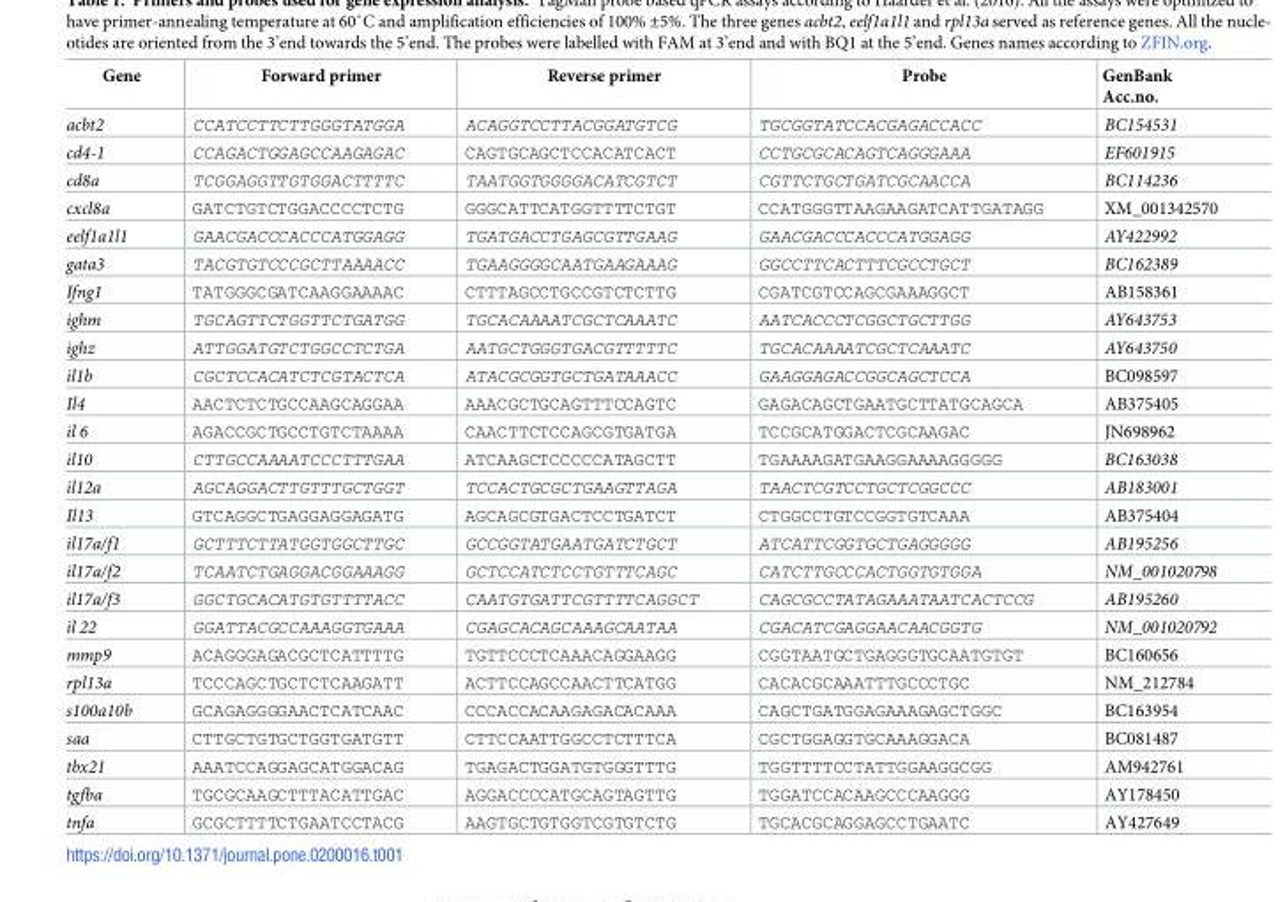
<table><thead><tr><td>Gene</td><td>Forward primer</td><td>Reverse primer</td><td>Probe</td><td>GenBank Acc.no.</td></tr></thead><tbody><tr><td>acbt2</td><td>CCATCCTTCTTGGGTATGGA</td><td>ACAGGTCCTTACGGATGTCG</td><td>TGCGGTATCCACGAGACCACC</td><td>BC154531</td></tr><tr><td>cd4-1</td><td>CCAGACTGGAGCCAAGAGAC</td><td>CAGTGCAGCTCCACATCACT</td><td>CCTGCGCACAGTCAGGGAAA</td><td>EF601915</td></tr><tr><td>cd8a</td><td>TCGGAGGTTGTGGACTTTTC</td><td>TAATGGTGGGGACATCGTCT</td><td>CGTTCTGCTGATCGCAACCA</td><td>BC114236</td></tr><tr><td>cxcl8a</td><td>GATCTGTCTGGACCCCTCTG</td><td>GGGCATTCATGGTTTTCTGT</td><td>CCATGGGTTAAGAAGATCATTGATAGG</td><td>XM_001342570</td></tr><tr><td>eelf1a1l1</td><td>GAACGACCCACCCATGGAGG</td><td>TGATGACCTGAGCGTTGAAG</td><td>GAACGACCCACCCATGGAGG</td><td>AY422992</td></tr><tr><td>gata3</td><td>TACGTGTCCCGCTTAAAACC</td><td>TGAAGGGGCAATGAAGAAAG</td><td>GGCCTTCACTTTCGCCTGCT</td><td>BC162389</td></tr><tr><td>Ifng1</td><td>TATGGGCGATCAAGGAAAAC</td><td>CTTTAGCCTGCCGTCTCTTG</td><td>CGATCGTCCAGCGAAAGGCT</td><td>AB158361</td></tr><tr><td>ighm</td><td>TGCAGTTCTGGTTCTGATGG</td><td>TGCACAAAATCGCTCAAATC</td><td>AATCACCCTCGGCTGCTTGG</td><td>AY643753</td></tr><tr><td>ighz</td><td>ATTGGATGTCTGGCCTCTGA</td><td>AATGCTGGGTGACGTTTTTC</td><td>TGCACAAAATCGCTCAAATC</td><td>AY643750</td></tr><tr><td>il1b</td><td>CGCTCCACATCTCGTACTCA</td><td>ATACGCGGTGCTGATAAACC</td><td>GAAGGAGACCGGCAGCTCCA</td><td>BC098597</td></tr><tr><td>Il4</td><td>AACTCTCTGCCAAGCAGGAA</td><td>AAACGCTGCAGTTTCCAGTC</td><td>GAGACAGCTGAATGCTTATGCAGCA</td><td>AB375405</td></tr><tr><td>il 6</td><td>AGACCGCTGCCTGTCTAAAA</td><td>CAACTTCTCCAGCGTGATGA</td><td>TCCGCATGGACTCGCAAGAC</td><td>JN698962</td></tr><tr><td>il10</td><td>CTTGCCAAAATCCCTTTGAA</td><td>ATCAAGCTCCCCCATAGCTT</td><td>TGAAAAGATGAAGGAAAAGGGGG</td><td>BC163038</td></tr><tr><td>il12a</td><td>AGCAGGACTTGTTTGCTGGT</td><td>TCCACTGCGCTGAAGTTAGA</td><td>TAACTCGTCCTGCTCGGCCC</td><td>AB183001</td></tr><tr><td>Il13</td><td>GTCAGGCTGAGGAGGAGATG</td><td>AGCAGCGTGACTCCTGATCT</td><td>CTGGCCTGTCCGGTGTCAAA</td><td>AB375404</td></tr><tr><td>il17a/f1</td><td>GCTTTCTTATGGTGGCTTGC</td><td>GCCGGTATGAATGATCTGCT</td><td>ATCATTCGGTGCTGAGGGGG</td><td>AB195256</td></tr><tr><td>il17a/f2</td><td>TCAATCTGAGGACGGAAAGG</td><td>GCTCCATCTCCTGTTTCAGC</td><td>CATCTTGCCCACTGGTGTGGA</td><td>NM_001020798</td></tr><tr><td>il17a/f3</td><td>GGCTGCACATGTGTTTTACC</td><td>CAATGTGATTCGTTTTCAGGCT</td><td>CAGCGCCTATAGAAATAATCACTCCG</td><td>AB195260</td></tr><tr><td>il 22</td><td>GGATTACGCCAAAGGTGAAA</td><td>CGAGCACAGCAAAGCAATAA</td><td>CGACATCGAGGAACAACGGTG</td><td>NM_001020792</td></tr><tr><td>mmp9</td><td>ACAGGGAGACGCTCATTTTG</td><td>TGTTCCCTCAAACAGGAAGG</td><td>CGGTAATGCTGAGGGTGCAATGTGT</td><td>BC160656</td></tr><tr><td>rpl13a</td><td>TCCCAGCTGCTCTCAAGATT</td><td>ACTTCCAGCCAACTTCATGG</td><td>CACACGCAAATTTGCCCTGC</td><td>NM_212784</td></tr><tr><td>s100a10b</td><td>GCAGAGGGGAACTCATCAAC</td><td>CCCACCACAAGAGACACAAA</td><td>CAGCTGATGGAGAAAGAGCTGGC</td><td>BC163954</td></tr><tr><td>saa</td><td>CTTGCTGTGCTGGTGATGTT</td><td>CTTCCAATTGGCCTCTTTCA</td><td>CGCTGGAGGTGCAAAGGACA</td><td>BC081487</td></tr><tr><td>tbx21</td><td>AAATCCAGGAGCATGGACAG</td><td>TGAGACTGGATGTGGGTTTG</td><td>TGGTTTTCCTATTGGAAGGCGG</td><td>AM942761</td></tr><tr><td>tgfba</td><td>TGCGCAAGCTTTACATTGAC</td><td>AGGACCCCATGCAGTAGTTG</td><td>TGGATCCACAAGCCCAAGGG</td><td>AY178450</td></tr><tr><td>tnfa</td><td>GCGCTTTTCTGAATCCTACG</td><td>AAGTGCTGTGGTCGTGTCTG</td><td>TGCACGCAGGAGCCTGAATC</td><td>AY427649</td></tr></tbody></table>